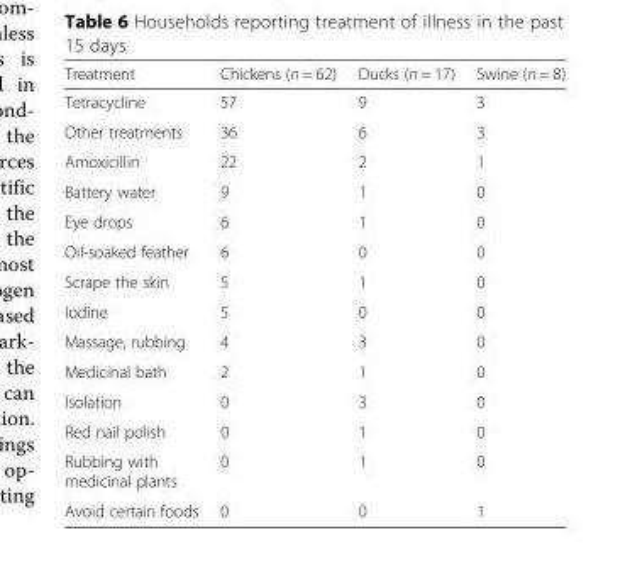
<table><thead><tr><td>Treatment</td><td>Chickens (n = 62)</td><td>Ducks (n = 17)</td><td>Swine (n = 8)</td></tr></thead><tbody><tr><td>Tetracycline</td><td>57</td><td>9</td><td>3</td></tr><tr><td>Other treatments</td><td>36</td><td>6</td><td>3</td></tr><tr><td>Amoxicillin</td><td>22</td><td>2</td><td>1</td></tr><tr><td>Battery water</td><td>9</td><td>1</td><td>0</td></tr><tr><td>Eye drops</td><td>6</td><td>1</td><td>0</td></tr><tr><td>Oil-soaked feather</td><td>6</td><td>0</td><td>0</td></tr><tr><td>Scrape the skin</td><td>5</td><td>1</td><td>0</td></tr><tr><td>Iodine</td><td>5</td><td>0</td><td>0</td></tr><tr><td>Massage, rubbing</td><td>4</td><td>3</td><td>0</td></tr><tr><td>Medicinal bath</td><td>2</td><td>1</td><td>0</td></tr><tr><td>Isolation</td><td>0</td><td>3</td><td>0</td></tr><tr><td>Red nail polish</td><td>0</td><td>1</td><td>0</td></tr><tr><td>Rubbing with medicinal plants</td><td>0</td><td>1</td><td>0</td></tr><tr><td>Avoid certain foods</td><td>0</td><td>0</td><td>1</td></tr></tbody></table>